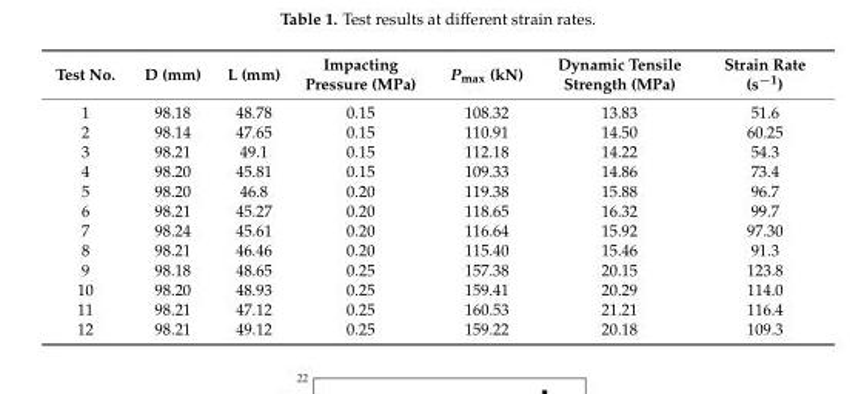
<table><thead><tr><td>Test No.</td><td>D (mm)</td><td>L (mm)</td><td>Impacting Pressure (MPa)</td><td>P<sub>max</sub> (kN)</td><td>Dynamic Tensile Strength (MPa)</td><td>Strain Rate (s<sup>−1</sup>)</td></tr></thead><tbody><tr><td>1</td><td>98.18</td><td>48.78</td><td>0.15</td><td>108.32</td><td>13.83</td><td>51.6</td></tr><tr><td>2</td><td>98.14</td><td>47.65</td><td>0.15</td><td>110.91</td><td>14.50</td><td>60.25</td></tr><tr><td>3</td><td>98.21</td><td>49.1</td><td>0.15</td><td>112.18</td><td>14.22</td><td>54.3</td></tr><tr><td>4</td><td>98.20</td><td>45.81</td><td>0.15</td><td>109.33</td><td>14.86</td><td>73.4</td></tr><tr><td>5</td><td>98.20</td><td>46.8</td><td>0.20</td><td>119.38</td><td>15.88</td><td>96.7</td></tr><tr><td>6</td><td>98.21</td><td>45.27</td><td>0.20</td><td>118.65</td><td>16.32</td><td>99.7</td></tr><tr><td>7</td><td>98.24</td><td>45.61</td><td>0.20</td><td>116.64</td><td>15.92</td><td>97.30</td></tr><tr><td>8</td><td>98.21</td><td>46.46</td><td>0.20</td><td>115.40</td><td>15.46</td><td>91.3</td></tr><tr><td>9</td><td>98.18</td><td>48.65</td><td>0.25</td><td>157.38</td><td>20.15</td><td>123.8</td></tr><tr><td>10</td><td>98.20</td><td>48.93</td><td>0.25</td><td>159.41</td><td>20.29</td><td>114.0</td></tr><tr><td>11</td><td>98.21</td><td>47.12</td><td>0.25</td><td>160.53</td><td>21.21</td><td>116.4</td></tr><tr><td>12</td><td>98.21</td><td>49.12</td><td>0.25</td><td>159.22</td><td>20.18</td><td>109.3</td></tr></tbody></table>